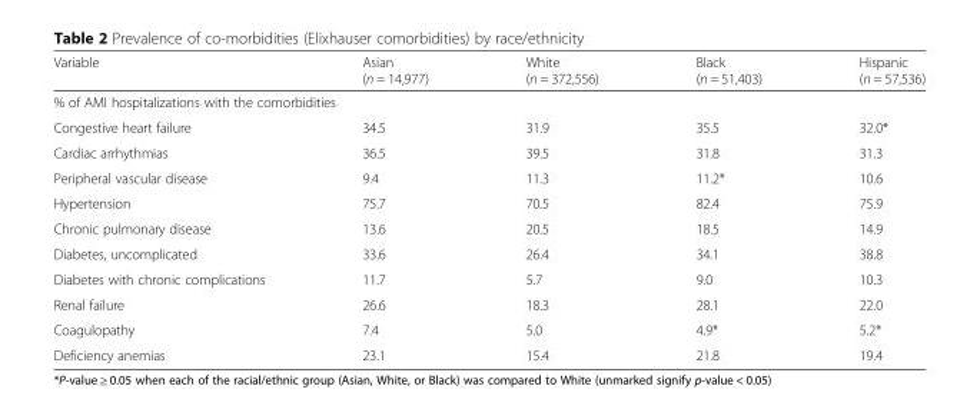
<table><thead><tr><td>Variable</td><td>Asian (n = 14,977)</td><td>White (n = 372,556)</td><td>Black (n = 51,403)</td><td>Hispanic (n = 57,536)</td></tr></thead><tbody><tr><td colspan="5">% of AMI hospitalizations with the comorbidities</td></tr><tr><td>Congestive heart failure</td><td>34.5</td><td>31.9</td><td>35.5</td><td>32.0*</td></tr><tr><td>Cardiac arrhythmias</td><td>36.5</td><td>39.5</td><td>31.8</td><td>31.3</td></tr><tr><td>Peripheral vascular disease</td><td>9.4</td><td>11.3</td><td>11.2*</td><td>10.6</td></tr><tr><td>Hypertension</td><td>75.7</td><td>70.5</td><td>82.4</td><td>75.9</td></tr><tr><td>Chronic pulmonary disease</td><td>13.6</td><td>20.5</td><td>18.5</td><td>14.9</td></tr><tr><td>Diabetes, uncomplicated</td><td>33.6</td><td>26.4</td><td>34.1</td><td>38.8</td></tr><tr><td>Diabetes with chronic complications</td><td>11.7</td><td>5.7</td><td>9.0</td><td>10.3</td></tr><tr><td>Renal failure</td><td>26.6</td><td>18.3</td><td>28.1</td><td>22.0</td></tr><tr><td>Coagulopathy</td><td>7.4</td><td>5.0</td><td>4.9*</td><td>5.2*</td></tr><tr><td>Deficiency anemias</td><td>23.1</td><td>15.4</td><td>21.8</td><td>19.4</td></tr></tbody></table>